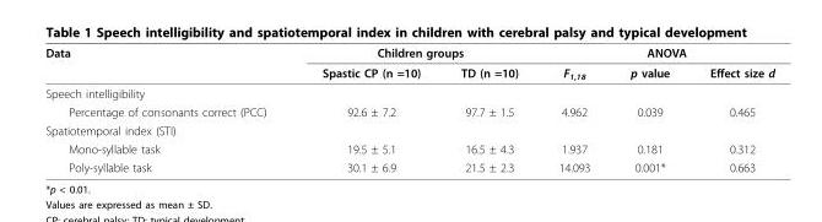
<table><thead><tr><td rowspan="2">Data</td><td colspan="2">Children groups</td><td colspan="3">ANOVA</td></tr><tr><td>Spastic CP (n =10)</td><td>TD (n =10)</td><td>F<sub>1,18</sub></td><td>p value</td><td>Effect size d</td></tr></thead><tbody><tr><td colspan="6">Speech intelligibility</td></tr><tr><td>Percentage of consonants correct (PCC)</td><td>92.6 ± 7.2</td><td>97.7 ± 1.5</td><td>4.962</td><td>0.039</td><td>0.465</td></tr><tr><td colspan="6">Spatiotemporal index (STI)</td></tr><tr><td>Mono-syllable task</td><td>19.5 ± 5.1</td><td>16.5 ± 4.3</td><td>1.937</td><td>0.181</td><td>0.312</td></tr><tr><td>Poly-syllable task</td><td>30.1 ± 6.9</td><td>21.5 ± 2.3</td><td>14.093</td><td>0.001*</td><td>0.663</td></tr></tbody></table>